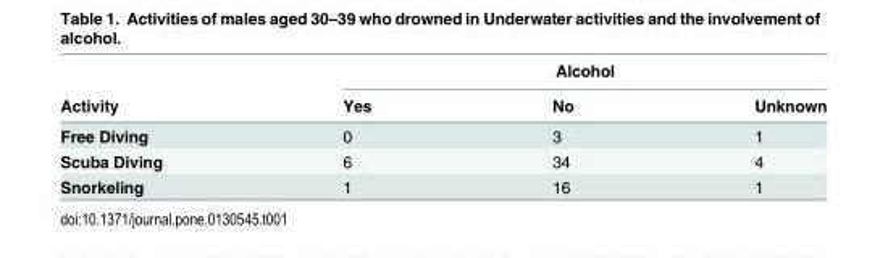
<table><thead><tr><td rowspan="2">Activity</td><td colspan="3">Alcohol</td></tr><tr><td>Yes</td><td>No</td><td>Unknown</td></tr></thead><tbody><tr><td>Free Diving</td><td>0</td><td>3</td><td>1</td></tr><tr><td>Scuba Diving</td><td>6</td><td>34</td><td>4</td></tr><tr><td>Snorkeling</td><td>1</td><td>16</td><td>1</td></tr></tbody></table>